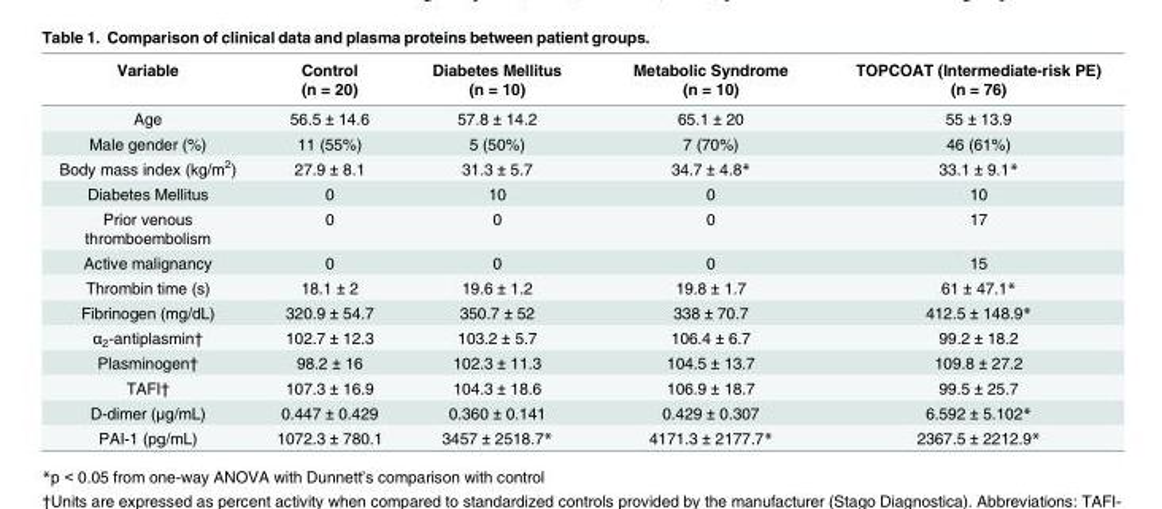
<table><thead><tr><td>Variable</td><td>Control (n = 20)</td><td>Diabetes Mellitus (n = 10)</td><td>Metabolic Syndrome (n = 10)</td><td>TOPCOAT (Intermediate-risk PE) (n = 76)</td></tr></thead><tbody><tr><td>Age</td><td>56.5 ± 14.6</td><td>57.8 ± 14.2</td><td>65.1 ± 20</td><td>55 ± 13.9</td></tr><tr><td>Male gender (%)</td><td>11 (55%)</td><td>5 (50%)</td><td>7 (70%)</td><td>46 (61%)</td></tr><tr><td>Body mass index (kg/m<sup>2</sup>)</td><td>27.9 ± 8.1</td><td>31.3 ± 5.7</td><td>34.7 ± 4.8*</td><td>33.1 ± 9.1*</td></tr><tr><td>Diabetes Mellitus</td><td>0</td><td>10</td><td>0</td><td>10</td></tr><tr><td>Prior venous thromboembolism</td><td>0</td><td>0</td><td>0</td><td>17</td></tr><tr><td>Active malignancy</td><td>0</td><td>0</td><td>0</td><td>15</td></tr><tr><td>Thrombin time (s)</td><td>18.1 ± 2</td><td>19.6 ± 1.2</td><td>19.8 ± 1.7</td><td>61 ± 47.1*</td></tr><tr><td>Fibrinogen (mg/dL)</td><td>320.9 ± 54.7</td><td>350.7 ± 52</td><td>338 ± 70.7</td><td>412.5 ± 148.9*</td></tr><tr><td>α<sub>2</sub>-antiplasmin†</td><td>102.7 ± 12.3</td><td>103.2 ± 5.7</td><td>106.4 ± 6.7</td><td>99.2 ± 18.2</td></tr><tr><td>Plasminogen†</td><td>98.2 ± 16</td><td>102.3 ± 11.3</td><td>104.5 ± 13.7</td><td>109.8 ± 27.2</td></tr><tr><td>TAFI†</td><td>107.3 ± 16.9</td><td>104.3 ± 18.6</td><td>106.9 ± 18.7</td><td>99.5 ± 25.7</td></tr><tr><td>D-dimer (μg/mL)</td><td>0.447 ± 0.429</td><td>0.360 ± 0.141</td><td>0.429 ± 0.307</td><td>6.592 ± 5.102*</td></tr><tr><td>PAI-1 (pg/mL)</td><td>1072.3 ± 780.1</td><td>3457 ± 2518.7*</td><td>4171.3 ± 2177.7*</td><td>2367.5 ± 2212.9*</td></tr></tbody></table>